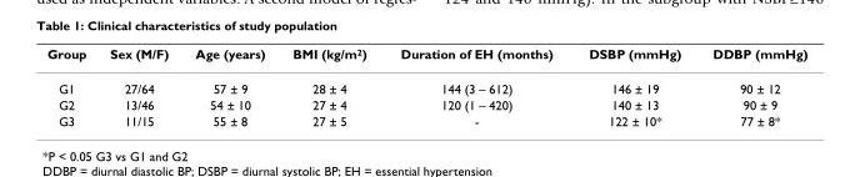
<table><thead><tr><td>Group</td><td>Sex (M/F)</td><td>Age (years)</td><td>BMI (kg/m<sup>2</sup>)</td><td>Duration of EH (months)</td><td>DSBP (mmHg)</td><td>DDBP (mmHg)</td></tr></thead><tbody><tr><td>G1</td><td>27/64</td><td>57 ± 9</td><td>28 ± 4</td><td>144 (3 – 612)</td><td>146 ± 19</td><td>90 ± 12</td></tr><tr><td>G2</td><td>13/46</td><td>54 ± 10</td><td>27 ± 4</td><td>120 (1 – 420)</td><td>140 ± 13</td><td>90 ± 9</td></tr><tr><td>G3</td><td>11/15</td><td>55 ± 8</td><td>27 ± 5</td><td>-</td><td>122 ± 10*</td><td>77 ± 8*</td></tr></tbody></table>